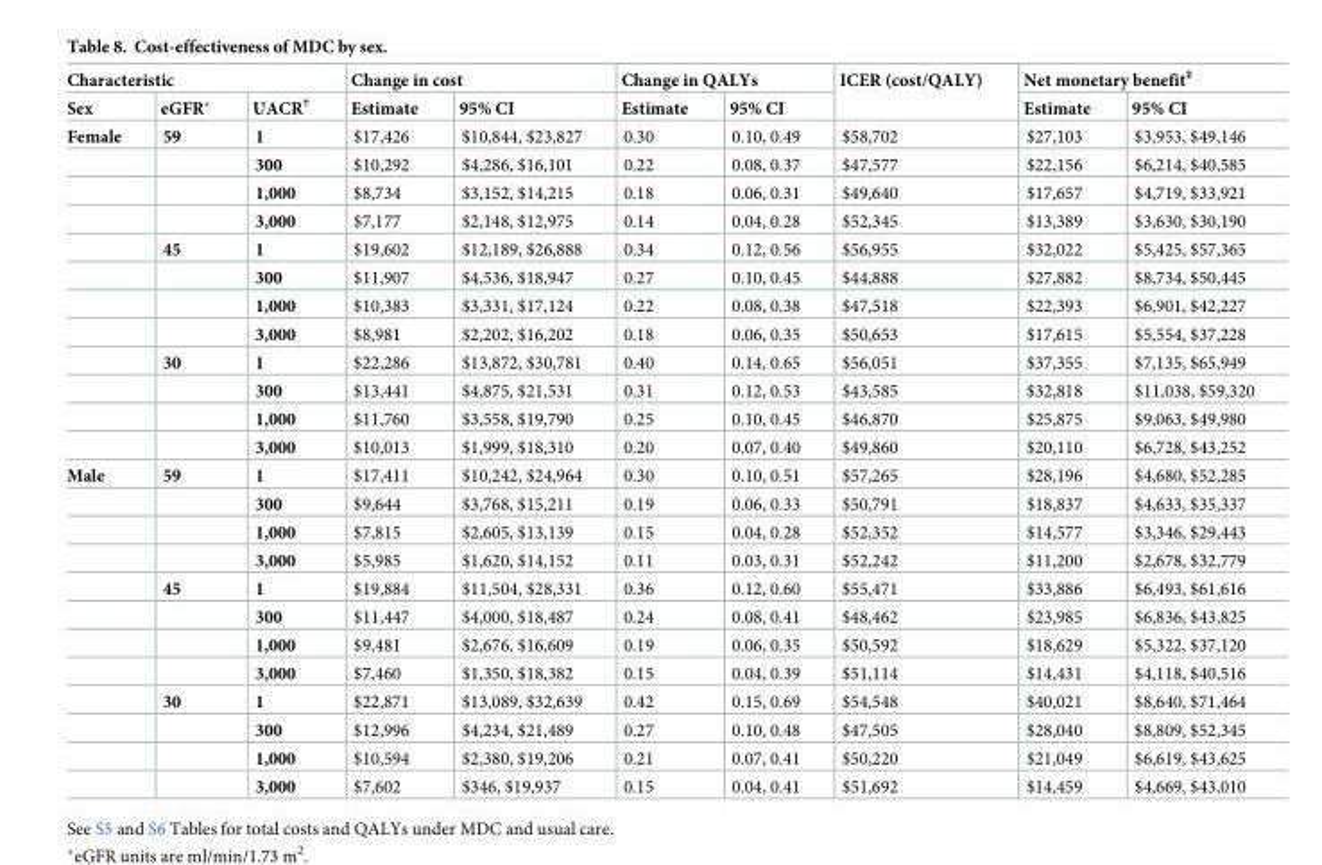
<table><thead><tr><td colspan="3">Characteristic</td><td colspan="2">Change in cost</td><td colspan="2">Change in QALYs</td><td rowspan="2">ICER (cost/QALY)</td><td colspan="2">Net monetary benefit<sup>‡</sup></td></tr><tr><td>Sex</td><td>eGFR*</td><td>UACR<sup>†</sup></td><td>Estimate</td><td>95% CI</td><td>Estimate</td><td>95% CI</td><td>Estimate</td><td>95% CI</td></tr></thead><tbody><tr><td rowspan="12">Female</td><td>59</td><td>1</td><td>$17,426</td><td>$10,844, $23,827</td><td>0.30</td><td>0.10, 0.49</td><td>$58,702</td><td>$27,103</td><td>$3,953, $49,146</td></tr><tr><td></td><td>300</td><td>$10,292</td><td>$4,286, $16,101</td><td>0.22</td><td>0.08, 0.37</td><td>$47,577</td><td>$22,156</td><td>$6,214, $40,585</td></tr><tr><td></td><td>1,000</td><td>$8,734</td><td>$3,152, $14,215</td><td>0.18</td><td>0.06, 0.31</td><td>$49,640</td><td>$17,657</td><td>$4,719, $33,921</td></tr><tr><td></td><td>3,000</td><td>$7,177</td><td>$2,148, $12,975</td><td>0.14</td><td>0.04, 0.28</td><td>$52,345</td><td>$13,389</td><td>$3,630, $30,190</td></tr><tr><td>45</td><td>1</td><td>$19,602</td><td>$12,189, $26,888</td><td>0.34</td><td>0.12, 0.56</td><td>$56,955</td><td>$32,022</td><td>$5,425, $57,365</td></tr><tr><td></td><td>300</td><td>$11,907</td><td>$4,536, $18,947</td><td>0.27</td><td>0.10, 0.45</td><td>$44,888</td><td>$27,882</td><td>$8,734, $50,445</td></tr><tr><td></td><td>1,000</td><td>$10,383</td><td>$3,331, $17,124</td><td>0.22</td><td>0.08, 0.38</td><td>$47,518</td><td>$22,393</td><td>$6,901, $42,227</td></tr><tr><td></td><td>3,000</td><td>$8,981</td><td>$2,202, $16,202</td><td>0.18</td><td>0.06, 0.35</td><td>$50,653</td><td>$17,615</td><td>$5,554, $37,228</td></tr><tr><td>30</td><td>1</td><td>$22,286</td><td>$13,872, $30,781</td><td>0.40</td><td>0.14, 0.65</td><td>$56,051</td><td>$37,355</td><td>$7,135, $65,949</td></tr><tr><td></td><td>300</td><td>$13,441</td><td>$4,875, $21,531</td><td>0.31</td><td>0.12, 0.53</td><td>$43,585</td><td>$32,818</td><td>$11,038, $59,320</td></tr><tr><td></td><td>1,000</td><td>$11,760</td><td>$3,558, $19,790</td><td>0.25</td><td>0.10, 0.45</td><td>$46,870</td><td>$25,875</td><td>$9,063, $49,980</td></tr><tr><td></td><td>3,000</td><td>$10,013</td><td>$1,999, $18,310</td><td>0.20</td><td>0.07, 0.40</td><td>$49,860</td><td>$20,110</td><td>$6,728, $43,252</td></tr><tr><td rowspan="12">Male</td><td>59</td><td>1</td><td>$17,411</td><td>$10,242, $24,964</td><td>0.30</td><td>0.10, 0.51</td><td>$57,265</td><td>$28,196</td><td>$4,680, $52,285</td></tr><tr><td></td><td>300</td><td>$9,644</td><td>$3,768, $15,211</td><td>0.19</td><td>0.06, 0.33</td><td>$50,791</td><td>$18,837</td><td>$4,633, $35,337</td></tr><tr><td></td><td>1,000</td><td>$7,815</td><td>$2,605, $13,139</td><td>0.15</td><td>0.04, 0.28</td><td>$52,352</td><td>$14,577</td><td>$3,346, $29,443</td></tr><tr><td></td><td>3,000</td><td>$5,985</td><td>$1,620, $14,152</td><td>0.11</td><td>0.03, 0.31</td><td>$52,242</td><td>$11,200</td><td>$2,678, $32,779</td></tr><tr><td>45</td><td>1</td><td>$19,884</td><td>$11,504, $28,331</td><td>0.36</td><td>0.12, 0.60</td><td>$55,471</td><td>$33,886</td><td>$6,493, $61,616</td></tr><tr><td></td><td>300</td><td>$11,447</td><td>$4,000, $18,487</td><td>0.24</td><td>0.08, 0.41</td><td>$48,462</td><td>$23,985</td><td>$6,836, $43,825</td></tr><tr><td></td><td>1,000</td><td>$9,481</td><td>$2,676, $16,609</td><td>0.19</td><td>0.06, 0.35</td><td>$50,592</td><td>$18,629</td><td>$5,322, $37,120</td></tr><tr><td></td><td>3,000</td><td>$7,460</td><td>$1,350, $18,382</td><td>0.15</td><td>0.04, 0.39</td><td>$51,114</td><td>$14,431</td><td>$4,118, $40,516</td></tr><tr><td>30</td><td>1</td><td>$22,871</td><td>$13,089, $32,639</td><td>0.42</td><td>0.15, 0.69</td><td>$54,548</td><td>$40,021</td><td>$8,640, $71,464</td></tr><tr><td></td><td>300</td><td>$12,996</td><td>$4,234, $21,489</td><td>0.27</td><td>0.10, 0.48</td><td>$47,505</td><td>$28,040</td><td>$8,809, $52,345</td></tr><tr><td></td><td>1,000</td><td>$10,594</td><td>$2,380, $19,206</td><td>0.21</td><td>0.07, 0.41</td><td>$50,220</td><td>$21,049</td><td>$6,619, $43,625</td></tr><tr><td></td><td>3,000</td><td>$7,602</td><td>$346, $19,937</td><td>0.15</td><td>0.04, 0.41</td><td>$51,692</td><td>$14,459</td><td>$4,669, $43,010</td></tr></tbody></table>